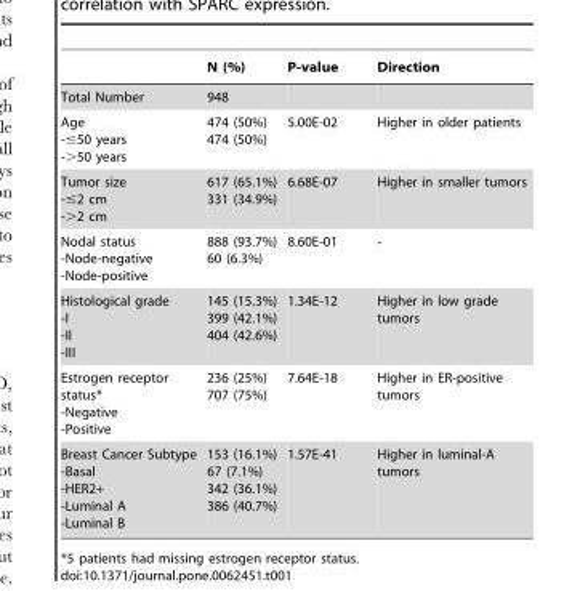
<table><thead><tr><td></td><td>N (%)</td><td>P-value</td><td>Direction</td></tr></thead><tbody><tr><td>Total Number</td><td>948</td><td></td><td></td></tr><tr><td>Age -≤50 years -&gt;50 years</td><td>474 (50%) 474 (50%)</td><td>5.00E-02</td><td>Higher in older patients</td></tr><tr><td>Tumor size -≤2 cm -&gt;2 cm</td><td>617 (65.1%) 331 (34.9%)</td><td>6.68E-07</td><td>Higher in smaller tumors</td></tr><tr><td>Nodal status -Node-negative -Node-positive</td><td>888 (93.7%) 60 (6.3%)</td><td>8.60E-01</td><td>-</td></tr><tr><td>Histological grade -I -II -III</td><td>145 (15.3%) 399 (42.1%) 404 (42.6%)</td><td>1.34E-12</td><td>Higher in low grade tumors</td></tr><tr><td>Estrogen receptor status* -Negative -Positive</td><td>236 (25%) 707 (75%)</td><td>7.64E-18</td><td>Higher in ER-positive tumors</td></tr><tr><td>Breast Cancer Subtype -Basal -HER2+ -Luminal A -Luminal B</td><td>153 (16.1%) 67 (7.1%) 342 (36.1%) 386 (40.7%)</td><td>1.57E-41</td><td>Higher in luminal-A tumors</td></tr></tbody></table>